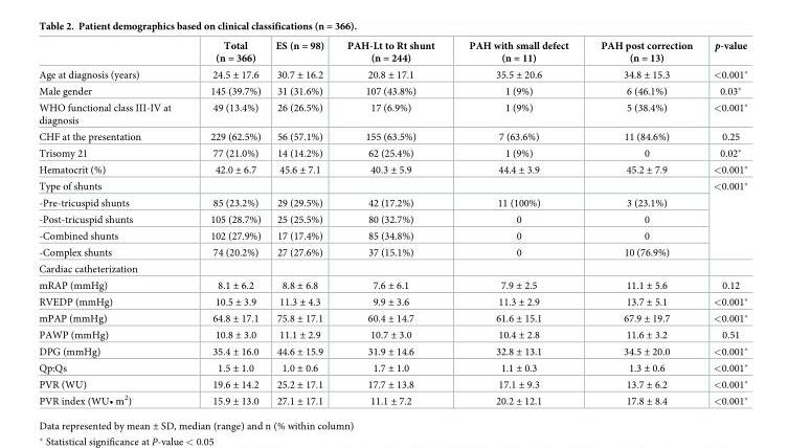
<table><thead><tr><td></td><td>Total (n = 366)</td><td>ES (n = 98)</td><td>PAH-Lt to Rt shunt (n = 244)</td><td>PAH with small defect (n = 11)</td><td>PAH post correction (n = 13)</td><td>p-value</td></tr></thead><tbody><tr><td>Age at diagnosis (years)</td><td>24.5 ± 17.6</td><td>30.7 ± 16.2</td><td>20.8 ± 17.1</td><td>35.5 ± 20.6</td><td>34.8 ± 15.3</td><td>&lt;0.001*</td></tr><tr><td>Male gender</td><td>145 (39.7%)</td><td>31 (31.6%)</td><td>107 (43.8%)</td><td>1 (9%)</td><td>6 (46.1%)</td><td>0.03*</td></tr><tr><td>WHO functional class III-IV at diagnosis</td><td>49 (13.4%)</td><td>26 (26.5%)</td><td>17 (6.9%)</td><td>1 (9%)</td><td>5 (38.4%)</td><td>&lt;0.001*</td></tr><tr><td>CHF at the presentation</td><td>229 (62.5%)</td><td>56 (57.1%)</td><td>155 (63.5%)</td><td>7 (63.6%)</td><td>11 (84.6%)</td><td>0.25</td></tr><tr><td>Trisomy 21</td><td>77 (21.0%)</td><td>14 (14.2%)</td><td>62 (25.4%)</td><td>1 (9%)</td><td>0</td><td>0.02*</td></tr><tr><td>Hematocrit (%)</td><td>42.0 ± 6.7</td><td>45.6 ± 7.1</td><td>40.3 ± 5.9</td><td>44.4 ± 3.9</td><td>45.2 ± 7.9</td><td>&lt;0.001*</td></tr><tr><td colspan="6">Type of shunts</td><td rowspan="5">&lt;0.001*</td></tr><tr><td>-Pre-tricuspid shunts</td><td>85 (23.2%)</td><td>29 (29.5%)</td><td>42 (17.2%)</td><td>11 (100%)</td><td>3 (23.1%)</td></tr><tr><td>-Post-tricuspid shunts</td><td>105 (28.7%)</td><td>25 (25.5%)</td><td>80 (32.7%)</td><td>0</td><td>0</td></tr><tr><td>-Combined shunts</td><td>102 (27.9%)</td><td>17 (17.4%)</td><td>85 (34.8%)</td><td>0</td><td>0</td></tr><tr><td>-Complex shunts</td><td>74 (20.2%)</td><td>27 (27.6%)</td><td>37 (15.1%)</td><td>0</td><td>10 (76.9%)</td></tr><tr><td colspan="7">Cardiac catheterization</td></tr><tr><td>mRAP (mmHg)</td><td>8.1 ± 6.2</td><td>8.8 ± 6.8</td><td>7.6 ± 6.1</td><td>7.9 ± 2.5</td><td>11.1 ± 5.6</td><td>0.12</td></tr><tr><td>RVEDP (mmHg)</td><td>10.5 ± 3.9</td><td>11.3 ± 4.3</td><td>9.9 ± 3.6</td><td>11.3 ± 2.9</td><td>13.7 ± 5.1</td><td>&lt;0.001*</td></tr><tr><td>mPAP (mmHg)</td><td>64.8 ± 17.1</td><td>75.8 ± 17.1</td><td>60.4 ± 14.7</td><td>61.6 ± 15.1</td><td>67.9 ± 19.7</td><td>&lt;0.001*</td></tr><tr><td>PAWP (mmHg)</td><td>10.8 ± 3.0</td><td>11.1 ± 2.9</td><td>10.7 ± 3.0</td><td>10.4 ± 2.8</td><td>11.6 ± 3.2</td><td>0.51</td></tr><tr><td>DPG (mmHg)</td><td>35.4 ± 16.0</td><td>44.6 ± 15.9</td><td>31.9 ± 14.6</td><td>32.8 ± 13.1</td><td>34.5 ± 20.0</td><td>&lt;0.001*</td></tr><tr><td>Qp:Qs</td><td>1.5 ± 1.0</td><td>1.0 ± 0.6</td><td>1.7 ± 1.0</td><td>1.1 ± 0.3</td><td>1.3 ± 0.6</td><td>&lt;0.001*</td></tr><tr><td>PVR (WU)</td><td>19.6 ± 14.2</td><td>25.2 ± 17.1</td><td>17.7 ± 13.8</td><td>17.1 ± 9.3</td><td>13.7 ± 6.2</td><td>&lt;0.001*</td></tr><tr><td>PVR index (WU• m<sup>2</sup>)</td><td>15.9 ± 13.0</td><td>27.1 ± 17.1</td><td>11.1 ± 7.2</td><td>20.2 ± 12.1</td><td>17.8 ± 8.4</td><td>&lt;0.001*</td></tr></tbody></table>